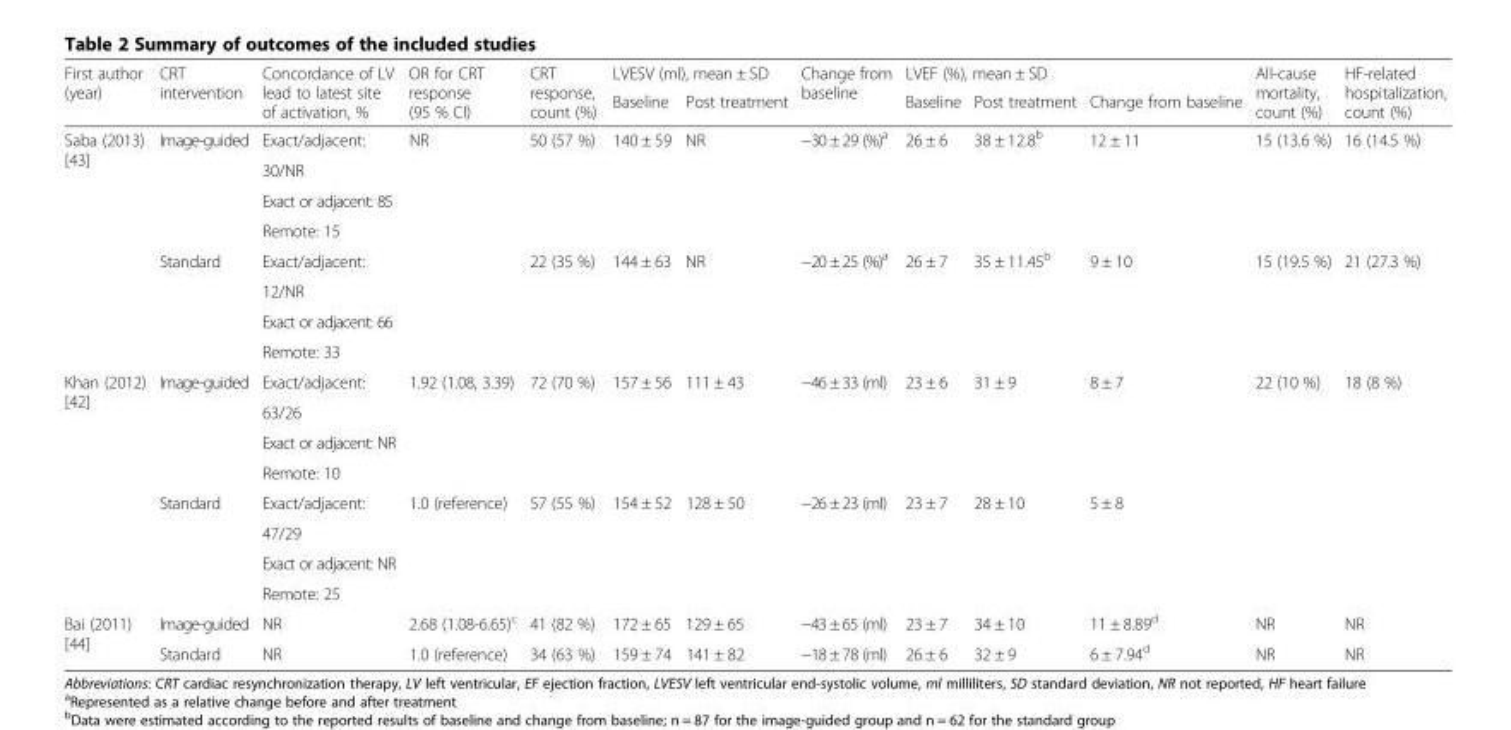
<table><thead><tr><td rowspan="2">First author (year)</td><td rowspan="2">CRT intervention</td><td rowspan="2">Concordance of LV lead to latest site of activation, %</td><td rowspan="2">OR for CRT response (95 % CI)</td><td rowspan="2">CRT response, count (%)</td><td colspan="2">LVESV (ml), mean ± SD</td><td rowspan="2">Change from baseline</td><td colspan="3">LVEF (%), mean ± SD</td><td rowspan="2">All-cause mortality, count (%)</td><td rowspan="2">HF-related hospitalization, count (%)</td></tr><tr><td>Baseline</td><td>Post treatment</td><td>Baseline</td><td>Post treatment</td><td>Change from baseline</td></tr></thead><tbody><tr><td rowspan="8">Saba (2013) [43]</td><td rowspan="4">Image-guided</td><td>Exact/adjacent:</td><td rowspan="8">NR</td><td rowspan="4">50 (57 %)</td><td rowspan="4">140 ± 59</td><td rowspan="4">NR</td><td rowspan="4">−30 ± 29 (%)<sup>a</sup></td><td rowspan="4">26 ± 6</td><td rowspan="4">38 ± 12.8<sup>b</sup></td><td rowspan="4">12 ± 11</td><td rowspan="4">15 (13.6 %)</td><td rowspan="4">16 (14.5 %)</td></tr><tr><td>30/NR</td></tr><tr><td>Exact or adjacent: 85</td></tr><tr><td>Remote: 15</td></tr><tr><td rowspan="4">Standard</td><td>Exact/adjacent:</td><td rowspan="4">22 (35 %)</td><td rowspan="4">144 ± 63</td><td rowspan="4">NR</td><td rowspan="4">−20 ± 25 (%)<sup>a</sup></td><td rowspan="4">26 ± 7</td><td rowspan="4">35 ± 11.45<sup>b</sup></td><td rowspan="4">9 ± 10</td><td rowspan="4">15 (19.5 %)</td><td rowspan="4">21 (27.3 %)</td></tr><tr><td>12/NR</td></tr><tr><td>Exact or adjacent: 66</td></tr><tr><td>Remote: 33</td></tr><tr><td rowspan="8">Khan (2012) [42]</td><td rowspan="4">Image-guided</td><td>Exact/adjacent:</td><td rowspan="4">1.92 (1.08, 3.39)</td><td rowspan="4">72 (70 %)</td><td rowspan="4">157 ± 56</td><td rowspan="4">111 ± 43</td><td rowspan="4">−46 ± 33 (ml)</td><td rowspan="4">23 ± 6</td><td rowspan="4">31 ± 9</td><td rowspan="4">8 ± 7</td><td rowspan="4">22 (10 %)</td><td rowspan="8">18 (8 %)</td></tr><tr><td>63/26</td></tr><tr><td>Exact or adjacent: NR</td></tr><tr><td>Remote: 10</td></tr><tr><td rowspan="4">Standard</td><td>Exact/adjacent:</td><td rowspan="4">1.0 (reference)</td><td rowspan="4">57 (55 %)</td><td rowspan="4">154 ± 52</td><td rowspan="4">128 ± 50</td><td rowspan="4">−26 ± 23 (ml)</td><td rowspan="4">23 ± 7</td><td rowspan="4">28 ± 10</td><td rowspan="4">5 ± 8</td><td rowspan="4"></td></tr><tr><td>47/29</td></tr><tr><td>Exact or adjacent: NR</td></tr><tr><td>Remote: 25</td></tr><tr><td rowspan="2">Bai (2011) [44]</td><td>Image-guided</td><td>NR</td><td>2.68 (1.08-6.65)<sup>c</sup></td><td>41 (82 %)</td><td>172 ± 65</td><td>129 ± 65</td><td>−43 ± 65 (ml)</td><td>23 ± 7</td><td>34 ± 10</td><td>11 ± 8.89<sup>d</sup></td><td>NR</td><td>NR</td></tr><tr><td>Standard</td><td>NR</td><td>1.0 (reference)</td><td>34 (63 %)</td><td>159 ± 74</td><td>141 ± 82</td><td>−18 ± 78 (ml)</td><td>26 ± 6</td><td>32 ± 9</td><td>6 ± 7.94<sup>d</sup></td><td>NR</td><td>NR</td></tr></tbody></table>